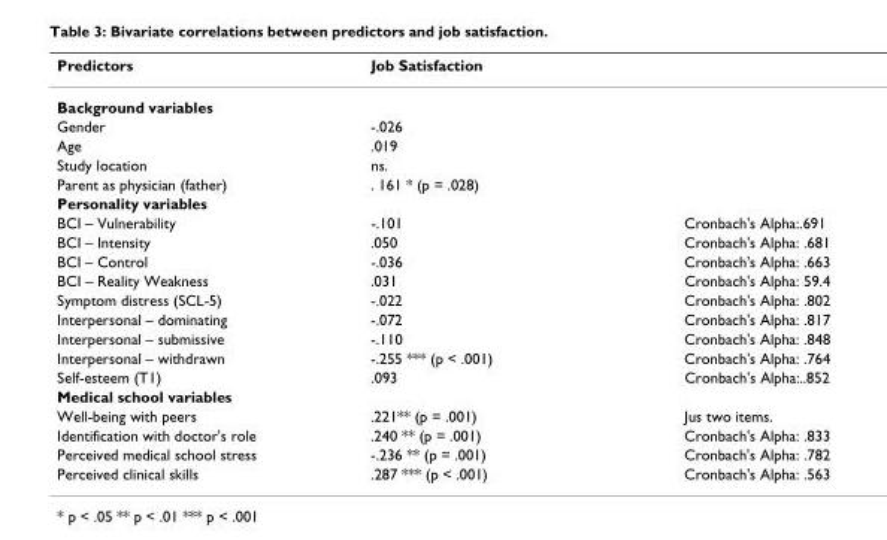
<table><thead><tr><td>Predictors</td><td>Job Satisfaction</td><td></td></tr></thead><tbody><tr><td colspan="3">Background variables</td></tr><tr><td>Gender</td><td>-.026</td><td></td></tr><tr><td>Age</td><td>.019</td><td></td></tr><tr><td>Study location</td><td>ns.</td><td></td></tr><tr><td>Parent as physician (father)</td><td>. 161 * (p = .028)</td><td></td></tr><tr><td colspan="3">Personality variables</td></tr><tr><td>BCI – Vulnerability</td><td>-.101</td><td>Cronbach&#x27;s Alpha:.691</td></tr><tr><td>BCI – Intensity</td><td>.050</td><td>Cronbach&#x27;s Alpha: .681</td></tr><tr><td>BCI – Control</td><td>-.036</td><td>Cronbach&#x27;s Alpha: .663</td></tr><tr><td>BCI – Reality Weakness</td><td>.031</td><td>Cronbach&#x27;s Alpha: 59.4</td></tr><tr><td>Symptom distress (SCL-5)</td><td>-.022</td><td>Cronbach&#x27;s Alpha: .802</td></tr><tr><td>Interpersonal – dominating</td><td>-.072</td><td>Cronbach&#x27;s Alpha: .817</td></tr><tr><td>Interpersonal – submissive</td><td>-.110</td><td>Cronbach&#x27;s Alpha: .848</td></tr><tr><td>Interpersonal – withdrawn</td><td>-.255 *** (p &lt; .001)</td><td>Cronbach&#x27;s Alpha: .764</td></tr><tr><td>Self-esteem (T1)</td><td>.093</td><td>Cronbach&#x27;s Alpha:..852</td></tr><tr><td colspan="3">Medical school variables</td></tr><tr><td>Well-being with peers</td><td>.221** (p = .001)</td><td>Jus two items.</td></tr><tr><td>Identification with doctor&#x27;s role</td><td>.240 ** (p = .001)</td><td>Cronbach&#x27;s Alpha: .833</td></tr><tr><td>Perceived medical school stress</td><td>-.236 ** (p = .001)</td><td>Cronbach&#x27;s Alpha: .782</td></tr><tr><td>Perceived clinical skills</td><td>.287 *** (p &lt; .001)</td><td>Cronbach&#x27;s Alpha: .563</td></tr></tbody></table>